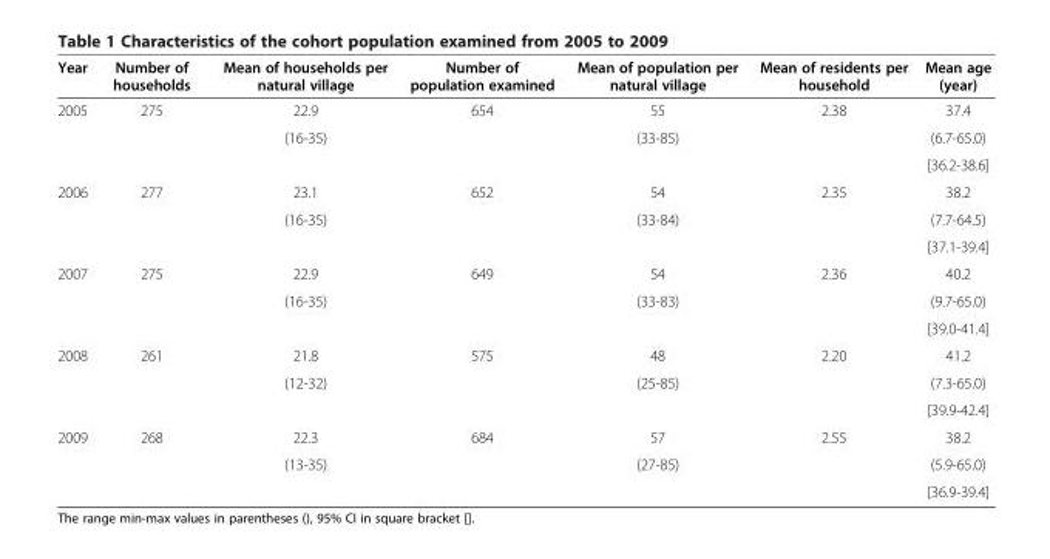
<table><thead><tr><td>Year</td><td>Number of households</td><td>Mean of households per natural village</td><td>Number of population examined</td><td>Mean of population per natural village</td><td>Mean of residents per household</td><td>Mean age (year)</td></tr></thead><tbody><tr><td rowspan="3">2005</td><td rowspan="3">275</td><td>22.9</td><td rowspan="3">654</td><td>55</td><td rowspan="3">2.38</td><td>37.4</td></tr><tr><td rowspan="2">(16-35)</td><td rowspan="2">(33-85)</td><td>(6.7-65.0)</td></tr><tr><td>[36.2-38.6]</td></tr><tr><td rowspan="3">2006</td><td rowspan="3">277</td><td>23.1</td><td rowspan="3">652</td><td>54</td><td rowspan="3">2.35</td><td>38.2</td></tr><tr><td rowspan="2">(16-35)</td><td rowspan="2">(33-84)</td><td>(7.7-64.5)</td></tr><tr><td>[37.1-39.4]</td></tr><tr><td rowspan="3">2007</td><td rowspan="3">275</td><td>22.9</td><td rowspan="3">649</td><td>54</td><td rowspan="3">2.36</td><td>40.2</td></tr><tr><td rowspan="2">(16-35)</td><td rowspan="2">(33-83)</td><td>(9.7-65.0)</td></tr><tr><td>[39.0-41.4]</td></tr><tr><td rowspan="3">2008</td><td rowspan="3">261</td><td>21.8</td><td rowspan="3">575</td><td>48</td><td rowspan="3">2.20</td><td>41.2</td></tr><tr><td rowspan="2">(12-32)</td><td rowspan="2">(25-85)</td><td>(7.3-65.0)</td></tr><tr><td>[39.9-42.4]</td></tr><tr><td rowspan="3">2009</td><td rowspan="3">268</td><td>22.3</td><td rowspan="3">684</td><td>57</td><td rowspan="3">2.55</td><td>38.2</td></tr><tr><td rowspan="2">(13-35)</td><td rowspan="2">(27-85)</td><td>(5.9-65.0)</td></tr><tr><td>[36.9-39.4]</td></tr></tbody></table>